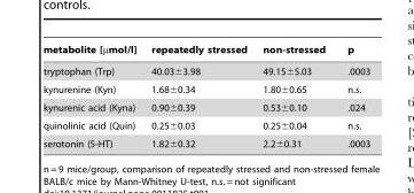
<table><thead><tr><td>metabolite [µmol/l]</td><td>repeatedly stressed</td><td>non-stressed</td><td>p</td></tr></thead><tbody><tr><td>tryptophan (Trp)</td><td>40.03±3.98</td><td>49.15±5.03</td><td>.0003</td></tr><tr><td>kynurenine (Kyn)</td><td>1.68±0.34</td><td>1.80±0.65</td><td>n.s.</td></tr><tr><td>kynurenic acid (Kyna)</td><td>0.90±0.39</td><td>0.53±0.10</td><td>.024</td></tr><tr><td>quinolinic acid (Quin)</td><td>0.25±0.03</td><td>0.25±0.04</td><td>n.s.</td></tr><tr><td>serotonin (5-HT)</td><td>1.82±0.32</td><td>2.2±0.31</td><td>.0003</td></tr></tbody></table>